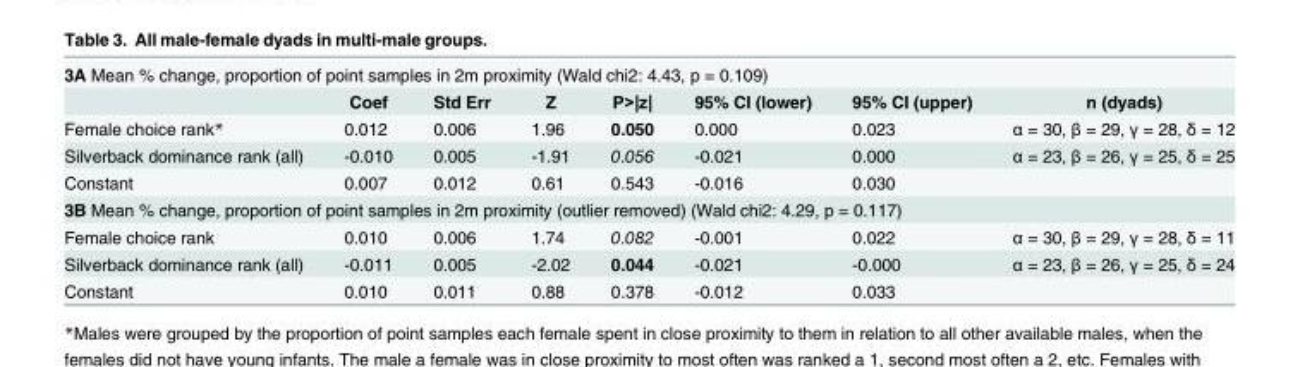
<table><tbody><tr><td colspan="8">3A Mean % change, proportion of point samples in 2m proximity (Wald chi2: 4.43, p = 0.109)</td></tr><tr><td></td><td>Coef</td><td>Std Err</td><td>Z</td><td>P&gt;|z|</td><td>95% CI (lower)</td><td>95% CI (upper)</td><td>n (dyads)</td></tr><tr><td>Female choice rank*</td><td>0.012</td><td>0.006</td><td>1.96</td><td>0.050</td><td>0.000</td><td>0.023</td><td>α = 30, β = 29, γ = 28, δ = 12</td></tr><tr><td>Silverback dominance rank (all)</td><td>-0.010</td><td>0.005</td><td>-1.91</td><td>0.056</td><td>-0.021</td><td>0.000</td><td>α = 23, β = 26, γ = 25, δ = 25</td></tr><tr><td>Constant</td><td>0.007</td><td>0.012</td><td>0.61</td><td>0.543</td><td>-0.016</td><td>0.030</td><td></td></tr><tr><td colspan="8">3B Mean % change, proportion of point samples in 2m proximity (outlier removed) (Wald chi2: 4.29, p = 0.117)</td></tr><tr><td>Female choice rank</td><td>0.010</td><td>0.006</td><td>1.74</td><td>0.082</td><td>-0.001</td><td>0.022</td><td>α = 30, β = 29, γ = 28, δ = 11</td></tr><tr><td>Silverback dominance rank (all)</td><td>-0.011</td><td>0.005</td><td>-2.02</td><td>0.044</td><td>-0.021</td><td>-0.000</td><td>α = 23, β = 26, γ = 25, δ = 24</td></tr><tr><td>Constant</td><td>0.010</td><td>0.011</td><td>0.88</td><td>0.378</td><td>-0.012</td><td>0.033</td><td></td></tr></tbody></table>